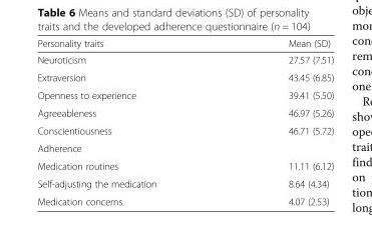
<table><thead><tr><td>Personality traits</td><td>Mean (SD)</td></tr></thead><tbody><tr><td>Neuroticism</td><td>27.57 (7.51)</td></tr><tr><td>Extraversion</td><td>43.45 (6.85)</td></tr><tr><td>Openness to experience</td><td>39.41 (5.50)</td></tr><tr><td>Agreeableness</td><td>46.97 (5.26)</td></tr><tr><td>Conscientiousness</td><td>46.71 (5.72)</td></tr><tr><td colspan="2">Adherence</td></tr><tr><td>Medication routines</td><td>11.11 (6.12)</td></tr><tr><td>Self-adjusting the medication</td><td>8.64 (4.34)</td></tr><tr><td>Medication concerns</td><td>4.07 (2.53)</td></tr></tbody></table>